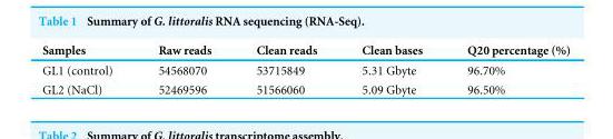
<table><thead><tr><td>Samples</td><td>Raw reads</td><td>Clean reads</td><td>Clean bases</td><td>Q20 percentage (%)</td></tr></thead><tbody><tr><td>GL1 (control)</td><td>54568070</td><td>53715849</td><td>5.31 Gbyte</td><td>96.70%</td></tr><tr><td>GL2 (NaCl)</td><td>52469596</td><td>51566060</td><td>5.09 Gbyte</td><td>96.50%</td></tr></tbody></table>